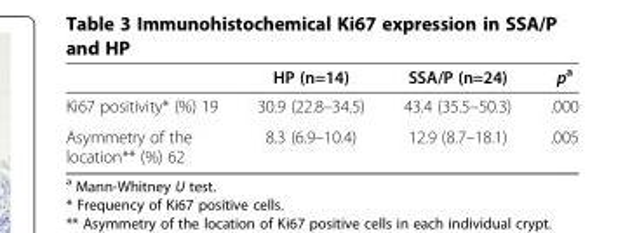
<table><thead><tr><td></td><td>HP (n=14)</td><td>SSA/P (n=24)</td><td>p<sup>a</sup></td></tr></thead><tbody><tr><td>Ki67 positivity* (%) 19</td><td>30.9 (22.8–34.5)</td><td>43.4 (35.5–50.3)</td><td>.000</td></tr><tr><td>Asymmetry of the location** (%) 62</td><td>8.3 (6.9–10.4)</td><td>12.9 (8.7–18.1)</td><td>.005</td></tr></tbody></table>